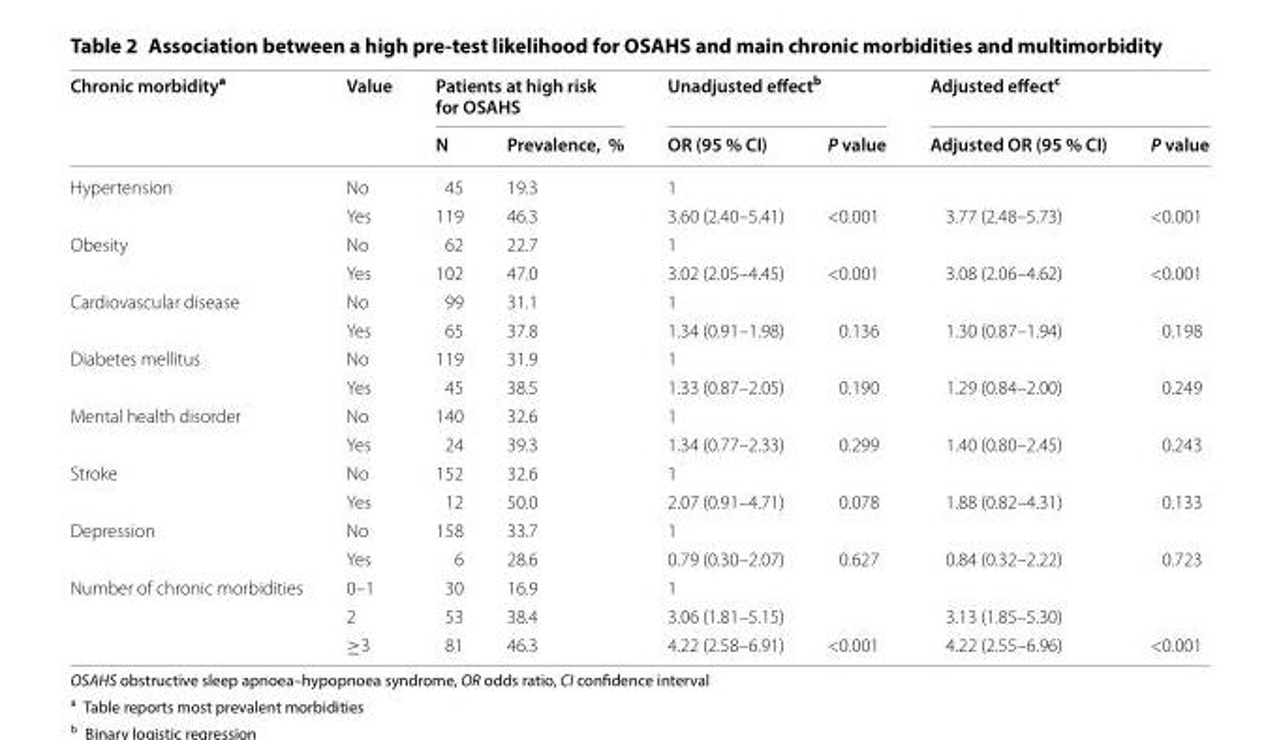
<table><thead><tr><td rowspan="2">Chronic morbidity<sup>a</sup></td><td rowspan="2">Value</td><td colspan="2">Patients at high risk for OSAHS</td><td colspan="2">Unadjusted effect<sup>b</sup></td><td colspan="2">Adjusted effect<sup>c</sup></td></tr><tr><td>N</td><td>Prevalence, %</td><td>OR (95 % CI)</td><td>P value</td><td>Adjusted OR (95 % CI)</td><td>P value</td></tr></thead><tbody><tr><td rowspan="2">Hypertension</td><td>No</td><td>45</td><td>19.3</td><td>1</td><td></td><td></td><td></td></tr><tr><td>Yes</td><td>119</td><td>46.3</td><td>3.60 (2.40–5.41)</td><td>&lt;0.001</td><td>3.77 (2.48–5.73)</td><td>&lt;0.001</td></tr><tr><td rowspan="2">Obesity</td><td>No</td><td>62</td><td>22.7</td><td>1</td><td></td><td></td><td></td></tr><tr><td>Yes</td><td>102</td><td>47.0</td><td>3.02 (2.05–4.45)</td><td>&lt;0.001</td><td>3.08 (2.06–4.62)</td><td>&lt;0.001</td></tr><tr><td rowspan="2">Cardiovascular disease</td><td>No</td><td>99</td><td>31.1</td><td>1</td><td></td><td></td><td></td></tr><tr><td>Yes</td><td>65</td><td>37.8</td><td>1.34 (0.91–1.98)</td><td>0.136</td><td>1.30 (0.87–1.94)</td><td>0.198</td></tr><tr><td rowspan="2">Diabetes mellitus</td><td>No</td><td>119</td><td>31.9</td><td>1</td><td></td><td></td><td></td></tr><tr><td>Yes</td><td>45</td><td>38.5</td><td>1.33 (0.87–2.05)</td><td>0.190</td><td>1.29 (0.84–2.00)</td><td>0.249</td></tr><tr><td rowspan="2">Mental health disorder</td><td>No</td><td>140</td><td>32.6</td><td>1</td><td></td><td></td><td></td></tr><tr><td>Yes</td><td>24</td><td>39.3</td><td>1.34 (0.77–2.33)</td><td>0.299</td><td>1.40 (0.80–2.45)</td><td>0.243</td></tr><tr><td rowspan="2">Stroke</td><td>No</td><td>152</td><td>32.6</td><td>1</td><td></td><td></td><td></td></tr><tr><td>Yes</td><td>12</td><td>50.0</td><td>2.07 (0.91–4.71)</td><td>0.078</td><td>1.88 (0.82–4.31)</td><td>0.133</td></tr><tr><td rowspan="2">Depression</td><td>No</td><td>158</td><td>33.7</td><td>1</td><td></td><td></td><td></td></tr><tr><td>Yes</td><td>6</td><td>28.6</td><td>0.79 (0.30–2.07)</td><td>0.627</td><td>0.84 (0.32–2.22)</td><td>0.723</td></tr><tr><td rowspan="3">Number of chronic morbidities</td><td>0–1</td><td>30</td><td>16.9</td><td>1</td><td></td><td></td><td></td></tr><tr><td>2</td><td>53</td><td>38.4</td><td>3.06 (1.81–5.15)</td><td></td><td>3.13 (1.85–5.30)</td><td></td></tr><tr><td>≥3</td><td>81</td><td>46.3</td><td>4.22 (2.58–6.91)</td><td>&lt;0.001</td><td>4.22 (2.55–6.96)</td><td>&lt;0.001</td></tr></tbody></table>